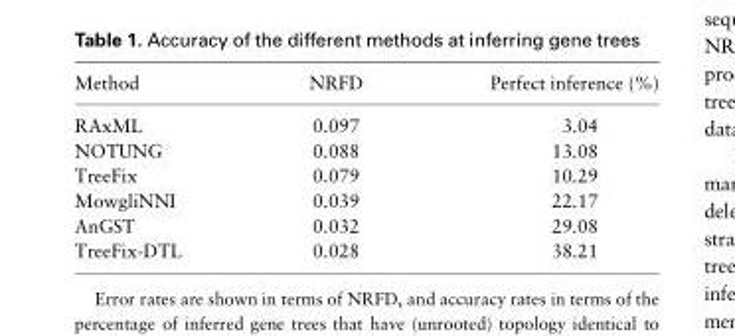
<table><thead><tr><td>Method</td><td>NRFD</td><td>Perfect inference (%)</td></tr></thead><tbody><tr><td>RAxML</td><td>0.097</td><td>3.04</td></tr><tr><td>NOTUNG</td><td>0.088</td><td>13.08</td></tr><tr><td>TreeFix</td><td>0.079</td><td>10.29</td></tr><tr><td>MowgliNNI</td><td>0.039</td><td>22.17</td></tr><tr><td>AnGST</td><td>0.032</td><td>29.08</td></tr><tr><td>TreeFix-DTL</td><td>0.028</td><td>38.21</td></tr></tbody></table>